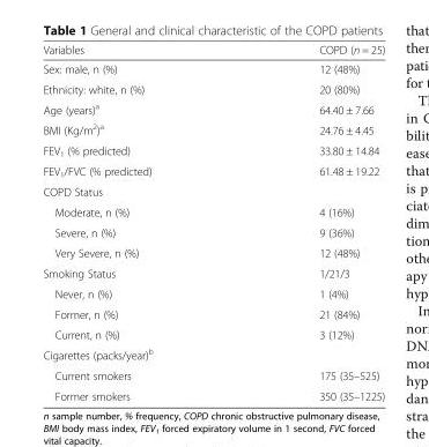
<table><thead><tr><td>Variables</td><td>COPD (n = 25)</td></tr></thead><tbody><tr><td>Sex: male, n (%)</td><td>12 (48%)</td></tr><tr><td>Ethnicity: white, n (%)</td><td>20 (80%)</td></tr><tr><td>Age (years)<sup>a</sup></td><td>64.40 ± 7.66</td></tr><tr><td>BMI (Kg/m<sup>2</sup>)<sup>a</sup></td><td>24.76 ± 4.45</td></tr><tr><td>FEV<sub>1</sub> (% predicted)</td><td>33.80 ± 14.84</td></tr><tr><td>FEV<sub>1</sub>/FVC (% predicted)</td><td>61.48 ± 19.22</td></tr><tr><td colspan="2">COPD Status</td></tr><tr><td>Moderate, n (%)</td><td>4 (16%)</td></tr><tr><td>Severe, n (%)</td><td>9 (36%)</td></tr><tr><td>Very Severe, n (%)</td><td>12 (48%)</td></tr><tr><td>Smoking Status</td><td>1/21/3</td></tr><tr><td>Never, n (%)</td><td>1 (4%)</td></tr><tr><td>Former, n (%)</td><td>21 (84%)</td></tr><tr><td>Current, n (%)</td><td>3 (12%)</td></tr><tr><td colspan="2">Cigarettes (packs/year)<sup>b</sup></td></tr><tr><td>Current smokers</td><td>175 (35–525)</td></tr><tr><td>Former smokers</td><td>350 (35–1225)</td></tr></tbody></table>